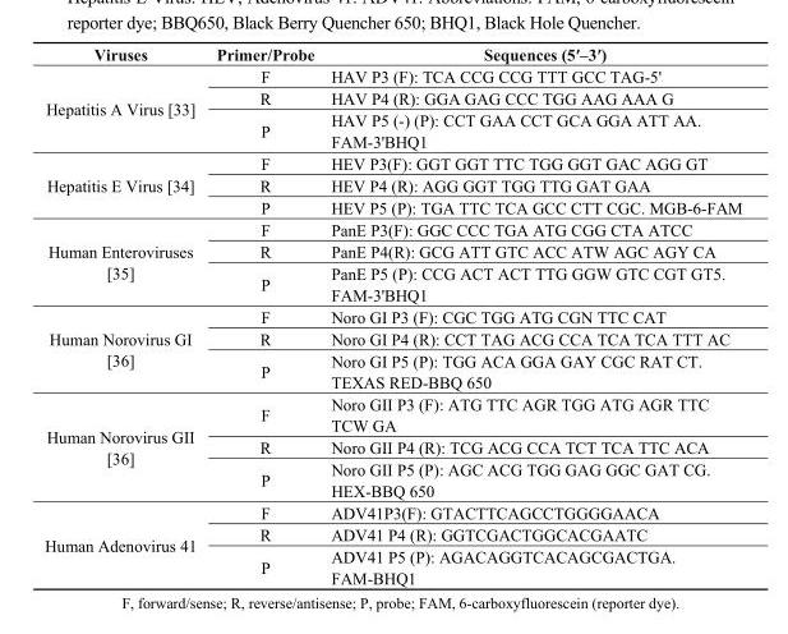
<table><thead><tr><td>Viruses</td><td>Primer/Probe</td><td>Sequences (5′–3′)</td></tr></thead><tbody><tr><td rowspan="3">Hepatitis A Virus [33]</td><td>F</td><td>HAV P3 (F): TCA CCG CCG TTT GCC TAG-5&#x27;</td></tr><tr><td>R</td><td>HAV P4 (R): GGA GAG CCC TGG AAG AAA G</td></tr><tr><td>P</td><td>HAV P5 (-) (P): CCT GAA CCT GCA GGA ATT AA. FAM-3&#x27;BHQ1</td></tr><tr><td rowspan="3">Hepatitis E Virus [34]</td><td>F</td><td>HEV P3(F): GGT GGT TTC TGG GGT GAC AGG GT</td></tr><tr><td>R</td><td>HEV P4 (R): AGG GGT TGG TTG GAT GAA</td></tr><tr><td>P</td><td>HEV P5 (P): TGA TTC TCA GCC CTT CGC. MGB-6-FAM</td></tr><tr><td rowspan="3">Human Enteroviruses [35]</td><td>F</td><td>PanE P3(F): GGC CCC TGA ATG CGG CTA ATCC</td></tr><tr><td>R</td><td>PanE P4(R): GCG ATT GTC ACC ATW AGC AGY CA</td></tr><tr><td>P</td><td>PanE P5 (P): CCG ACT ACT TTG GGW GTC CGT GT5. FAM-3&#x27;BHQ1</td></tr><tr><td rowspan="3">Human Norovirus GI [36]</td><td>F</td><td>Noro GI P3 (F): CGC TGG ATG CGN TTC CAT</td></tr><tr><td>R</td><td>Noro GI P4 (R): CCT TAG ACG CCA TCA TCA TTT AC</td></tr><tr><td>P</td><td>Noro GI P5 (P): TGG ACA GGA GAY CGC RAT CT. TEXAS RED-BBQ 650</td></tr><tr><td rowspan="3">Human Norovirus GII [36]</td><td>F</td><td>Noro GII P3 (F): ATG TTC AGR TGG ATG AGR TTC TCW GA</td></tr><tr><td>R</td><td>Noro GII P4 (R): TCG ACG CCA TCT TCA TTC ACA</td></tr><tr><td>P</td><td>Noro GII P5 (P): AGC ACG TGG GAG GGC GAT CG. HEX-BBQ 650</td></tr><tr><td rowspan="3">Human Adenovirus 41</td><td>F</td><td>ADV41P3(F): GTACTTCAGCCTGGGGAACA</td></tr><tr><td>R</td><td>ADV41 P4 (R): GGTCGACTGGCACGAATC</td></tr><tr><td>P</td><td>ADV41 P5 (P): AGACAGGTCACAGCGACTGA. FAM-BHQ1</td></tr></tbody></table>